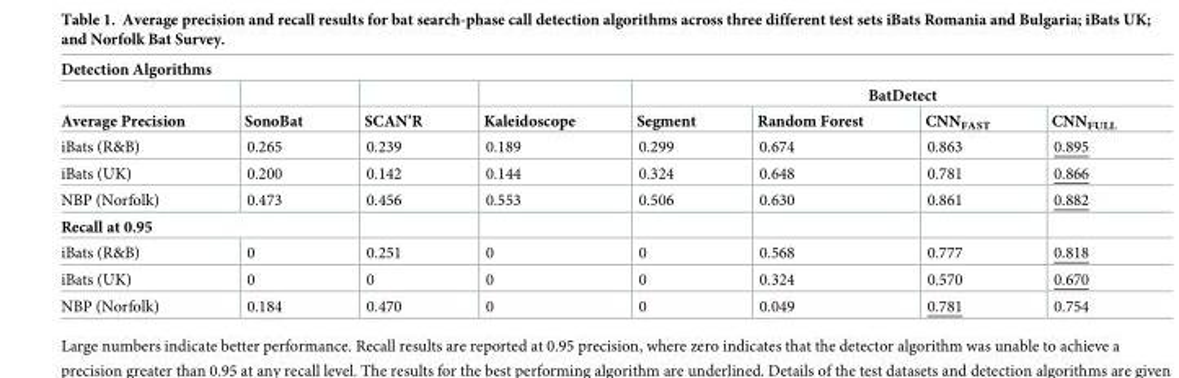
<table><thead><tr><td colspan="8">Detection Algorithms</td></tr><tr><td rowspan="2">Average Precision</td><td rowspan="2">SonoBat</td><td rowspan="2">SCAN’R</td><td rowspan="2">Kaleidoscope</td><td colspan="4">BatDetect</td></tr><tr><td>Segment</td><td>Random Forest</td><td>CNN<sub>FAST</sub></td><td>CNN<sub>FULL</sub></td></tr></thead><tbody><tr><td>iBats (R&amp;B)</td><td>0.265</td><td>0.239</td><td>0.189</td><td>0.299</td><td>0.674</td><td>0.863</td><td>0.895</td></tr><tr><td>iBats (UK)</td><td>0.200</td><td>0.142</td><td>0.144</td><td>0.324</td><td>0.648</td><td>0.781</td><td>0.866</td></tr><tr><td>NBP (Norfolk)</td><td>0.473</td><td>0.456</td><td>0.553</td><td>0.506</td><td>0.630</td><td>0.861</td><td>0.882</td></tr><tr><td colspan="8">Recall at 0.95</td></tr><tr><td>iBats (R&amp;B)</td><td>0</td><td>0.251</td><td>0</td><td>0</td><td>0.568</td><td>0.777</td><td>0.818</td></tr><tr><td>iBats (UK)</td><td>0</td><td>0</td><td>0</td><td>0</td><td>0.324</td><td>0.570</td><td>0.670</td></tr><tr><td>NBP (Norfolk)</td><td>0.184</td><td>0.470</td><td>0</td><td>0</td><td>0.049</td><td>0.781</td><td>0.754</td></tr></tbody></table>